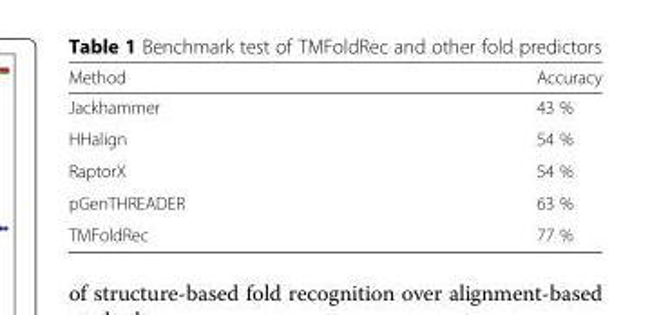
<table><thead><tr><td>Method</td><td>Accuracy</td></tr></thead><tbody><tr><td>Jackhammer</td><td>43 %</td></tr><tr><td>HHalign</td><td>54 %</td></tr><tr><td>RaptorX</td><td>54 %</td></tr><tr><td>pGenTHREADER</td><td>63 %</td></tr><tr><td>TMFoldRec</td><td>77 %</td></tr></tbody></table>